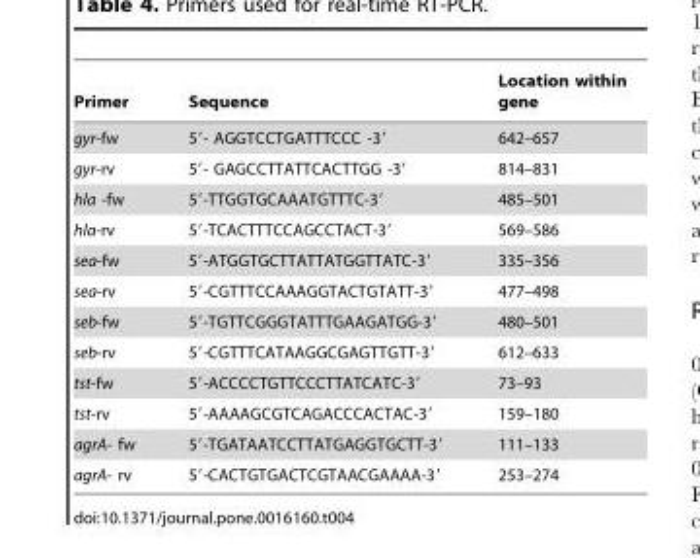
<table><thead><tr><td>Primer</td><td>Sequence</td><td>Location within gene</td></tr></thead><tbody><tr><td>gyr-fw</td><td>5′- AGGTCCTGATTTCCC -3′</td><td>642–657</td></tr><tr><td>gyr-rv</td><td>5′- GAGCCTTATTCACTTGG -3′</td><td>814–831</td></tr><tr><td>hla -fw</td><td>5′-TTGGTGCAAATGTTTC-3′</td><td>485–501</td></tr><tr><td>hla-rv</td><td>5′-TCACTTTCCAGCCTACT-3′</td><td>569–586</td></tr><tr><td>sea-fw</td><td>5′-ATGGTGCTTATTATGGTTATC-3′</td><td>335–356</td></tr><tr><td>sea-rv</td><td>5′-CGTTTCCAAAGGTACTGTATT-3′</td><td>477–498</td></tr><tr><td>seb-fw</td><td>5′-TGTTCGGGTATTTGAAGATGG-3′</td><td>480–501</td></tr><tr><td>seb-rv</td><td>5′-CGTTTCATAAGGCGAGTTGTT-3′</td><td>612–633</td></tr><tr><td>tst-fw</td><td>5′-ACCCCTGTTCCCTTATCATC-3′</td><td>73–93</td></tr><tr><td>tst-rv</td><td>5′-AAAAGCGTCAGACCCACTAC-3′</td><td>159–180</td></tr><tr><td>agrA- fw</td><td>5′-TGATAATCCTTATGAGGTGCTT-3′</td><td>111–133</td></tr><tr><td>agrA- rv</td><td>5′-CACTGTGACTCGTAACGAAAA-3′</td><td>253–274</td></tr></tbody></table>